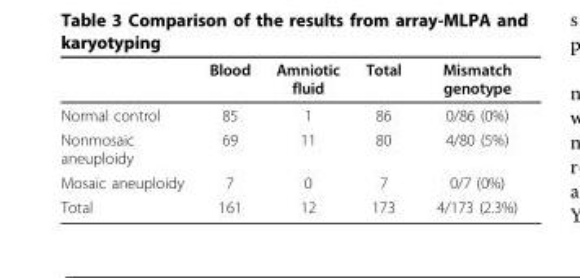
<table><thead><tr><td></td><td>Blood</td><td>Amniotic fluid</td><td>Total</td><td>Mismatch genotype</td></tr></thead><tbody><tr><td>Normal control</td><td>85</td><td>1</td><td>86</td><td>0/86 (0%)</td></tr><tr><td>Nonmosaic aneuploidy</td><td>69</td><td>11</td><td>80</td><td>4/80 (5%)</td></tr><tr><td>Mosaic aneuploidy</td><td>7</td><td>0</td><td>7</td><td>0/7 (0%)</td></tr><tr><td>Total</td><td>161</td><td>12</td><td>173</td><td>4/173 (2.3%)</td></tr></tbody></table>